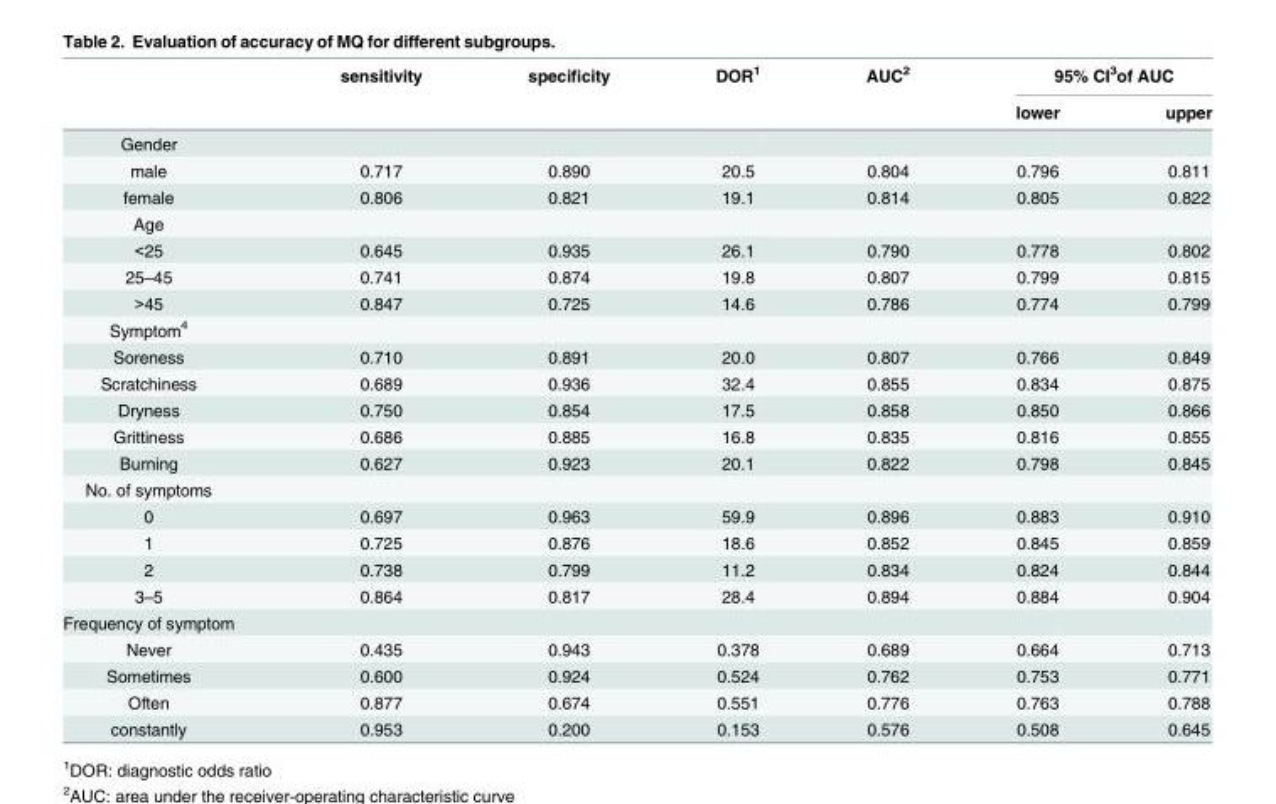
<table><thead><tr><td rowspan="2"></td><td rowspan="2">sensitivity</td><td rowspan="2">specificity</td><td rowspan="2">DOR<sup>1</sup></td><td rowspan="2">AUC<sup>2</sup></td><td colspan="2">95% CI<sup>3</sup>of AUC</td></tr><tr><td>lower</td><td>upper</td></tr></thead><tbody><tr><td colspan="7">Gender</td></tr><tr><td>male</td><td>0.717</td><td>0.890</td><td>20.5</td><td>0.804</td><td>0.796</td><td>0.811</td></tr><tr><td>female</td><td>0.806</td><td>0.821</td><td>19.1</td><td>0.814</td><td>0.805</td><td>0.822</td></tr><tr><td colspan="7">Age</td></tr><tr><td>&lt;25</td><td>0.645</td><td>0.935</td><td>26.1</td><td>0.790</td><td>0.778</td><td>0.802</td></tr><tr><td>25–45</td><td>0.741</td><td>0.874</td><td>19.8</td><td>0.807</td><td>0.799</td><td>0.815</td></tr><tr><td>&gt;45</td><td>0.847</td><td>0.725</td><td>14.6</td><td>0.786</td><td>0.774</td><td>0.799</td></tr><tr><td colspan="7">Symptom<sup>4</sup></td></tr><tr><td>Soreness</td><td>0.710</td><td>0.891</td><td>20.0</td><td>0.807</td><td>0.766</td><td>0.849</td></tr><tr><td>Scratchiness</td><td>0.689</td><td>0.936</td><td>32.4</td><td>0.855</td><td>0.834</td><td>0.875</td></tr><tr><td>Dryness</td><td>0.750</td><td>0.854</td><td>17.5</td><td>0.858</td><td>0.850</td><td>0.866</td></tr><tr><td>Grittiness</td><td>0.686</td><td>0.885</td><td>16.8</td><td>0.835</td><td>0.816</td><td>0.855</td></tr><tr><td>Burning</td><td>0.627</td><td>0.923</td><td>20.1</td><td>0.822</td><td>0.798</td><td>0.845</td></tr><tr><td colspan="7">No. of symptoms</td></tr><tr><td>0</td><td>0.697</td><td>0.963</td><td>59.9</td><td>0.896</td><td>0.883</td><td>0.910</td></tr><tr><td>1</td><td>0.725</td><td>0.876</td><td>18.6</td><td>0.852</td><td>0.845</td><td>0.859</td></tr><tr><td>2</td><td>0.738</td><td>0.799</td><td>11.2</td><td>0.834</td><td>0.824</td><td>0.844</td></tr><tr><td>3–5</td><td>0.864</td><td>0.817</td><td>28.4</td><td>0.894</td><td>0.884</td><td>0.904</td></tr><tr><td colspan="7">Frequency of symptom</td></tr><tr><td>Never</td><td>0.435</td><td>0.943</td><td>0.378</td><td>0.689</td><td>0.664</td><td>0.713</td></tr><tr><td>Sometimes</td><td>0.600</td><td>0.924</td><td>0.524</td><td>0.762</td><td>0.753</td><td>0.771</td></tr><tr><td>Often</td><td>0.877</td><td>0.674</td><td>0.551</td><td>0.776</td><td>0.763</td><td>0.788</td></tr><tr><td>constantly</td><td>0.953</td><td>0.200</td><td>0.153</td><td>0.576</td><td>0.508</td><td>0.645</td></tr></tbody></table>